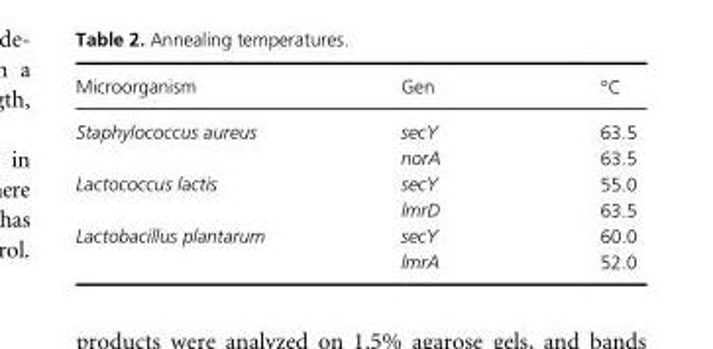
<table><thead><tr><td>Microorganism</td><td>Gen</td><td>°C</td></tr></thead><tbody><tr><td rowspan="2">Staphylococcus aureus</td><td>secY</td><td>63.5</td></tr><tr><td>norA</td><td>63.5</td></tr><tr><td rowspan="2">Lactococcus lactis</td><td>secY</td><td>55.0</td></tr><tr><td>lmrD</td><td>63.5</td></tr><tr><td rowspan="2">Lactobacillus plantarum</td><td>secY</td><td>60.0</td></tr><tr><td>lmrA</td><td>52.0</td></tr></tbody></table>